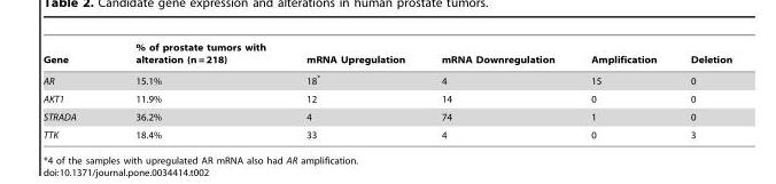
<table><thead><tr><td>Gene</td><td>% of prostate tumors with alteration (n = 218)</td><td>mRNA Upregulation</td><td>mRNA Downregulation</td><td>Amplification</td><td>Deletion</td></tr></thead><tbody><tr><td>AR</td><td>15.1%</td><td>18*</td><td>4</td><td>15</td><td>0</td></tr><tr><td>AKT1</td><td>11.9%</td><td>12</td><td>14</td><td>0</td><td>0</td></tr><tr><td>STRADA</td><td>36.2%</td><td>4</td><td>74</td><td>1</td><td>0</td></tr><tr><td>TTK</td><td>18.4%</td><td>33</td><td>4</td><td>0</td><td>3</td></tr></tbody></table>